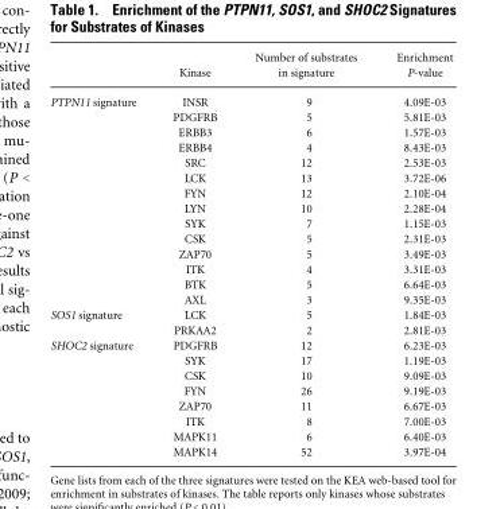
<table><thead><tr><td></td><td>Kinase</td><td>Number of substrates in signature</td><td>Enrichment P-value</td></tr></thead><tbody><tr><td rowspan="14">PTPN11 signature</td><td>INSR</td><td>9</td><td>4.09E-03</td></tr><tr><td>PDGFRB</td><td>5</td><td>5.81E-03</td></tr><tr><td>ERBB3</td><td>6</td><td>1.57E-03</td></tr><tr><td>ERBB4</td><td>4</td><td>8.43E-03</td></tr><tr><td>SRC</td><td>12</td><td>2.53E-03</td></tr><tr><td>LCK</td><td>13</td><td>3.72E-06</td></tr><tr><td>FYN</td><td>12</td><td>2.10E-04</td></tr><tr><td>LYN</td><td>10</td><td>2.28E-04</td></tr><tr><td>SYK</td><td>7</td><td>1.15E-03</td></tr><tr><td>CSK</td><td>5</td><td>2.31E-03</td></tr><tr><td>ZAP70</td><td>5</td><td>3.49E-03</td></tr><tr><td>ITK</td><td>4</td><td>3.31E-03</td></tr><tr><td>BTK</td><td>5</td><td>6.64E-03</td></tr><tr><td>AXL</td><td>3</td><td>9.35E-03</td></tr><tr><td rowspan="2">SOS1 signature</td><td>LCK</td><td>5</td><td>1.84E-03</td></tr><tr><td>PRKAA2</td><td>2</td><td>2.81E-03</td></tr><tr><td rowspan="8">SHOC2 signature</td><td>PDGFRB</td><td>12</td><td>6.23E-03</td></tr><tr><td>SYK</td><td>17</td><td>1.19E-03</td></tr><tr><td>CSK</td><td>10</td><td>9.09E-03</td></tr><tr><td>FYN</td><td>26</td><td>9.19E-03</td></tr><tr><td>ZAP70</td><td>11</td><td>6.67E-03</td></tr><tr><td>ITK</td><td>8</td><td>7.00E-03</td></tr><tr><td>MAPK11</td><td>6</td><td>6.40E-03</td></tr><tr><td>MAPK14</td><td>52</td><td>3.97E-04</td></tr></tbody></table>